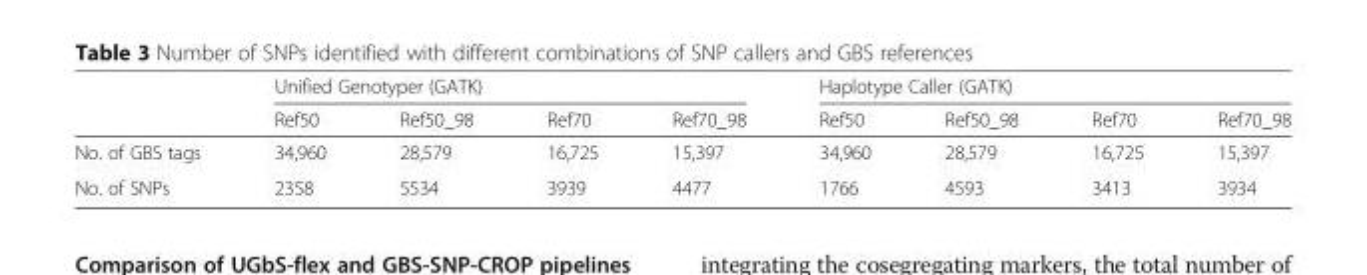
<table><thead><tr><td rowspan="2"></td><td colspan="4">Unified Genotyper (GATK)</td><td colspan="4">Haplotype Caller (GATK)</td></tr><tr><td>Ref50</td><td>Ref50_98</td><td>Ref70</td><td>Ref70_98</td><td>Ref50</td><td>Ref50_98</td><td>Ref70</td><td>Ref70_98</td></tr></thead><tbody><tr><td>No. of GBS tags</td><td>34,960</td><td>28,579</td><td>16,725</td><td>15,397</td><td>34,960</td><td>28,579</td><td>16,725</td><td>15,397</td></tr><tr><td>No. of SNPs</td><td>2358</td><td>5534</td><td>3939</td><td>4477</td><td>1766</td><td>4593</td><td>3413</td><td>3934</td></tr></tbody></table>